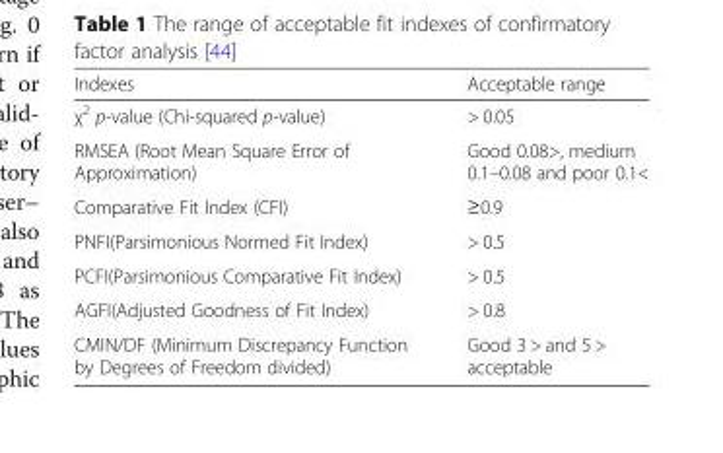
<table><thead><tr><td>Indexes</td><td>Acceptable range</td></tr></thead><tbody><tr><td>χ<sup>2</sup> p-value (Chi-squared p-value)</td><td>&gt; 0.05</td></tr><tr><td>RMSEA (Root Mean Square Error of Approximation)</td><td>Good 0.08&gt;, medium 0.1–0.08 and poor 0.1&lt;</td></tr><tr><td>Comparative Fit Index (CFI)</td><td>≥0.9</td></tr><tr><td>PNFI(Parsimonious Normed Fit Index)</td><td>&gt; 0.5</td></tr><tr><td>PCFI(Parsimonious Comparative Fit Index)</td><td>&gt; 0.5</td></tr><tr><td>AGFI(Adjusted Goodness of Fit Index)</td><td>&gt; 0.8</td></tr><tr><td>CMIN/DF (Minimum Discrepancy Function by Degrees of Freedom divided)</td><td>Good 3 &gt; and 5 &gt; acceptable</td></tr></tbody></table>